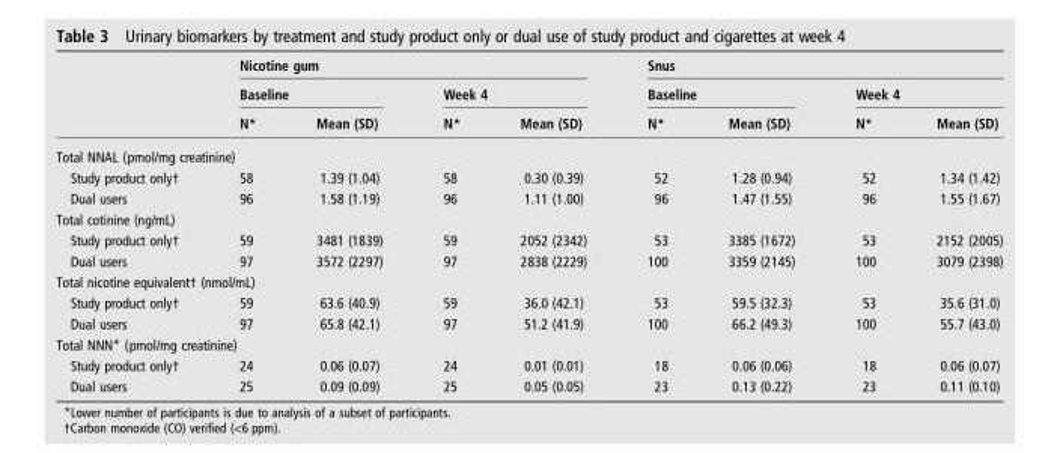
<table><thead><tr><td rowspan="3"></td><td colspan="4">Nicotine gum</td><td colspan="4">Snus</td></tr><tr><td colspan="2">Baseline</td><td colspan="2">Week 4</td><td colspan="2">Baseline</td><td colspan="2">Week 4</td></tr><tr><td>N*</td><td>Mean (SD)</td><td>N*</td><td>Mean (SD)</td><td>N*</td><td>Mean (SD)</td><td>N*</td><td>Mean (SD)</td></tr></thead><tbody><tr><td colspan="9">Total NNAL (pmol/mg creatinine)</td></tr><tr><td>Study product only†</td><td>58</td><td>1.39 (1.04)</td><td>58</td><td>0.30 (0.39)</td><td>52</td><td>1.28 (0.94)</td><td>52</td><td>1.34 (1.42)</td></tr><tr><td>Dual users</td><td>96</td><td>1.58 (1.19)</td><td>96</td><td>1.11 (1.00)</td><td>96</td><td>1.47 (1.55)</td><td>96</td><td>1.55 (1.67)</td></tr><tr><td colspan="9">Total cotinine (ng/mL)</td></tr><tr><td>Study product only†</td><td>59</td><td>3481 (1839)</td><td>59</td><td>2052 (2342)</td><td>53</td><td>3385 (1672)</td><td>53</td><td>2152 (2005)</td></tr><tr><td>Dual users</td><td>97</td><td>3572 (2297)</td><td>97</td><td>2838 (2229)</td><td>100</td><td>3359 (2145)</td><td>100</td><td>3079 (2398)</td></tr><tr><td colspan="9">Total nicotine equivalent† (nmol/mL)</td></tr><tr><td>Study product only†</td><td>59</td><td>63.6 (40.9)</td><td>59</td><td>36.0 (42.1)</td><td>53</td><td>59.5 (32.3)</td><td>53</td><td>35.6 (31.0)</td></tr><tr><td>Dual users</td><td>97</td><td>65.8 (42.1)</td><td>97</td><td>51.2 (41.9)</td><td>100</td><td>66.2 (49.3)</td><td>100</td><td>55.7 (43.0)</td></tr><tr><td colspan="9">Total NNN* (pmol/mg creatinine)</td></tr><tr><td>Study product only†</td><td>24</td><td>0.06 (0.07)</td><td>24</td><td>0.01 (0.01)</td><td>18</td><td>0.06 (0.06)</td><td>18</td><td>0.06 (0.07)</td></tr><tr><td>Dual users</td><td>25</td><td>0.09 (0.09)</td><td>25</td><td>0.05 (0.05)</td><td>23</td><td>0.13 (0.22)</td><td>23</td><td>0.11 (0.10)</td></tr></tbody></table>